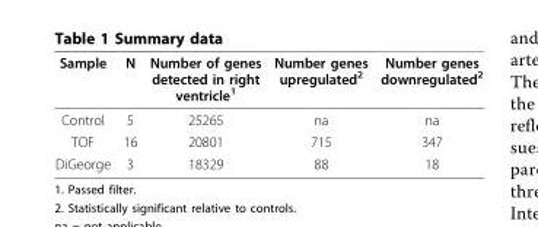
<table><thead><tr><td>Sample</td><td>N</td><td>Number of genes detected in right ventricle<sup>1</sup></td><td>Number genes upregulated<sup>2</sup></td><td>Number genes downregulated<sup>2</sup></td></tr></thead><tbody><tr><td>Control</td><td>5</td><td>25265</td><td>na</td><td>na</td></tr><tr><td>TOF</td><td>16</td><td>20801</td><td>715</td><td>347</td></tr><tr><td>DiGeorge</td><td>3</td><td>18329</td><td>88</td><td>18</td></tr></tbody></table>